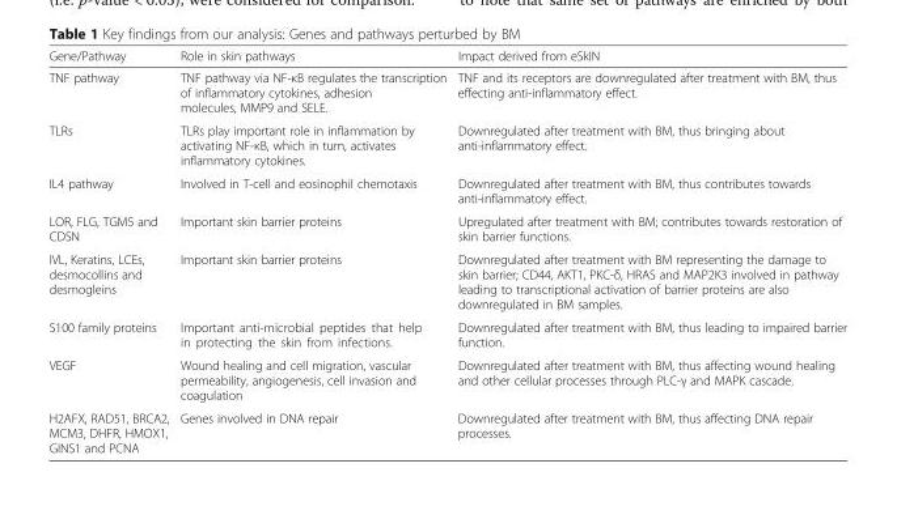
<table><thead><tr><td>Gene/Pathway</td><td>Role in skin pathways</td><td>Impact derived from eSkIN</td></tr></thead><tbody><tr><td>TNF pathway</td><td>TNF pathway via NF-κB regulates the transcription of inflammatory cytokines, adhesion molecules, MMP9 and SELE.</td><td>TNF and its receptors are downregulated after treatment with BM, thus effecting anti-inflammatory effect.</td></tr><tr><td>TLRs</td><td>TLRs play important role in inflammation by activating NF-κB, which in turn, activates inflammatory cytokines.</td><td>Downregulated after treatment with BM, thus bringing about anti-inflammatory effect.</td></tr><tr><td>IL4 pathway</td><td>Involved in T-cell and eosinophil chemotaxis</td><td>Downregulated after treatment with BM, thus contributes towards anti-inflammatory effect.</td></tr><tr><td>LOR, FLG, TGM5 and CDSN</td><td>Important skin barrier proteins</td><td>Upregulated after treatment with BM; contributes towards restoration of skin barrier functions.</td></tr><tr><td>IVL, Keratins, LCEs, desmocollins and desmogleins</td><td>Important skin barrier proteins</td><td>Downregulated after treatment with BM representing the damage to skin barrier; CD44, AKT1, PKC-δ, HRAS and MAP2K3 involved in pathway leading to transcriptional activation of barrier proteins are also downregulated in BM samples.</td></tr><tr><td>S100 family proteins</td><td>Important anti-microbial peptides that help in protecting the skin from infections.</td><td>Downregulated after treatment with BM, thus leading to impaired barrier function.</td></tr><tr><td>VEGF</td><td>Wound healing and cell migration, vascular permeability, angiogenesis, cell invasion and coagulation</td><td>Downregulated after treatment with BM, thus affecting wound healing and other cellular processes through PLC-γ and MAPK cascade.</td></tr><tr><td>H2AFX, RAD51, BRCA2, MCM3, DHFR, HMOX1, GINS1 and PCNA</td><td>Genes involved in DNA repair</td><td>Downregulated after treatment with BM, thus affecting DNA repair processes.</td></tr></tbody></table>